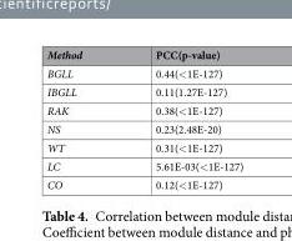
<table><thead><tr><td>Method</td><td>PCC(p-value)</td></tr></thead><tbody><tr><td>BGLL</td><td>0.44(&lt;1E-127)</td></tr><tr><td>IBGLL</td><td>0.11(1.27E-127)</td></tr><tr><td>RAK</td><td>0.38(&lt;1E-127)</td></tr><tr><td>NS</td><td>0.23(2.48E-20)</td></tr><tr><td>WT</td><td>0.31(&lt;1E-127)</td></tr><tr><td>LC</td><td>5.61E-03(&lt;1E-127)</td></tr><tr><td>CO</td><td>0.12(&lt;1E-127)</td></tr></tbody></table>